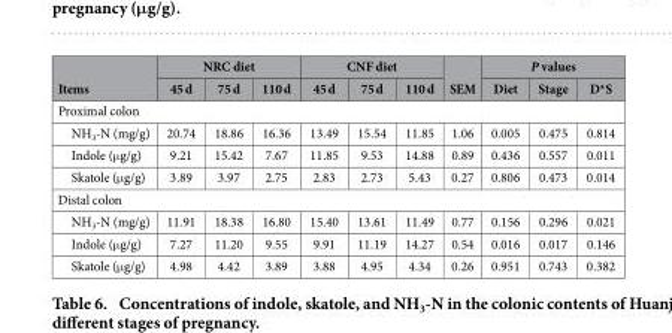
<table><thead><tr><td rowspan="2">Items</td><td colspan="3">NRC diet</td><td colspan="3">CNF diet</td><td rowspan="2">SEM</td><td colspan="3">P values</td></tr><tr><td>45 d</td><td>75 d</td><td>110 d</td><td>45 d</td><td>75 d</td><td>110 d</td><td>Diet</td><td>Stage</td><td>D*S</td></tr></thead><tbody><tr><td colspan="11">Proximal colon</td></tr><tr><td>NH<sub>3</sub>-N (mg/g)</td><td>20.74</td><td>18.86</td><td>16.36</td><td>13.49</td><td>15.54</td><td>11.85</td><td>1.06</td><td>0.005</td><td>0.475</td><td>0.814</td></tr><tr><td>Indole (μ g/g)</td><td>9.21</td><td>15.42</td><td>7.67</td><td>11.85</td><td>9.53</td><td>14.88</td><td>0.89</td><td>0.436</td><td>0.557</td><td>0.011</td></tr><tr><td>Skatole (μ g/g)</td><td>3.89</td><td>3.97</td><td>2.75</td><td>2.83</td><td>2.73</td><td>5.43</td><td>0.27</td><td>0.806</td><td>0.473</td><td>0.014</td></tr><tr><td colspan="11">Distal colon</td></tr><tr><td>NH<sub>3</sub>-N (mg/g)</td><td>11.91</td><td>18.38</td><td>16.80</td><td>15.40</td><td>13.61</td><td>11.49</td><td>0.77</td><td>0.156</td><td>0.296</td><td>0.021</td></tr><tr><td>Indole (μ g/g)</td><td>7.27</td><td>11.20</td><td>9.55</td><td>9.91</td><td>11.19</td><td>14.27</td><td>0.54</td><td>0.016</td><td>0.017</td><td>0.146</td></tr><tr><td>Skatole (μ g/g)</td><td>4.98</td><td>4.42</td><td>3.89</td><td>3.88</td><td>4.95</td><td>4.34</td><td>0.26</td><td>0.951</td><td>0.743</td><td>0.382</td></tr></tbody></table>